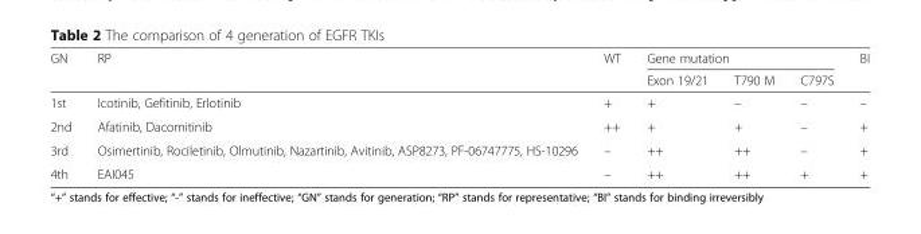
<table><thead><tr><td rowspan="2">GN</td><td rowspan="2">RP</td><td rowspan="2">WT</td><td colspan="3">Gene mutation</td><td rowspan="2">BI</td></tr><tr><td>Exon 19/21</td><td>T790 M</td><td>C797S</td></tr></thead><tbody><tr><td>1st</td><td>Icotinib, Gefitinib, Erlotinib</td><td>+</td><td>+</td><td>–</td><td>–</td><td>–</td></tr><tr><td>2nd</td><td>Afatinib, Dacomitinib</td><td>++</td><td>+</td><td>+</td><td>–</td><td>+</td></tr><tr><td>3rd</td><td>Osimertinib, Rociletinib, Olmutinib, Nazartinib, Avitinib, ASP8273, PF-06747775, HS-10296</td><td>–</td><td>++</td><td>++</td><td>–</td><td>+</td></tr><tr><td>4th</td><td>EAI045</td><td>–</td><td>++</td><td>++</td><td>+</td><td>+</td></tr></tbody></table>